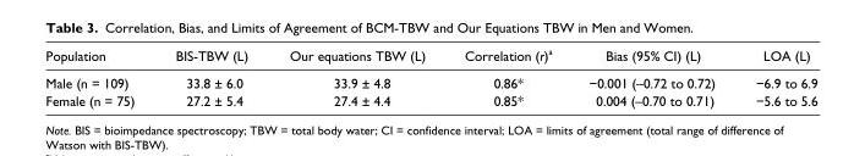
<table><thead><tr><td>Population</td><td>BIS-TBW (L)</td><td>Our equations TBW (L)</td><td>Correlation (r)<sup>a</sup></td><td>Bias (95% CI) (L)</td><td>LOA (L)</td></tr></thead><tbody><tr><td>Male (n = 109)</td><td>33.8 ± 6.0</td><td>33.9 ± 4.8</td><td>0.86*</td><td>−0.001 (–0.72 to 0.72)</td><td>−6.9 to 6.9</td></tr><tr><td>Female (n = 75)</td><td>27.2 ± 5.4</td><td>27.4 ± 4.4</td><td>0.85*</td><td>0.004 (–0.70 to 0.71)</td><td>−5.6 to 5.6</td></tr></tbody></table>